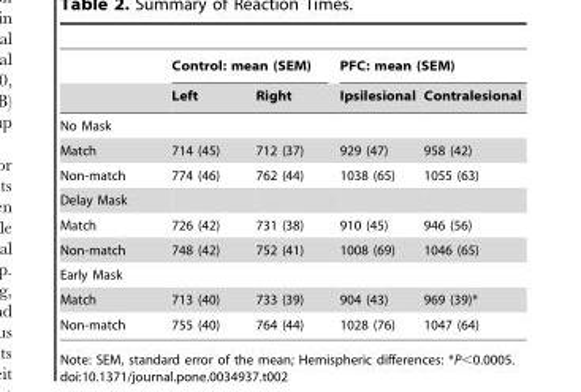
<table><thead><tr><td rowspan="2"></td><td colspan="2">Control: mean (SEM)</td><td colspan="2">PFC: mean (SEM)</td></tr><tr><td>Left</td><td>Right</td><td>Ipsilesional</td><td>Contralesional</td></tr></thead><tbody><tr><td colspan="5">No Mask</td></tr><tr><td>Match</td><td>714 (45)</td><td>712 (37)</td><td>929 (47)</td><td>958 (42)</td></tr><tr><td>Non-match</td><td>774 (46)</td><td>762 (44)</td><td>1038 (65)</td><td>1055 (63)</td></tr><tr><td colspan="5">Delay Mask</td></tr><tr><td>Match</td><td>726 (42)</td><td>731 (38)</td><td>910 (45)</td><td>946 (56)</td></tr><tr><td>Non-match</td><td>748 (42)</td><td>752 (41)</td><td>1008 (69)</td><td>1046 (65)</td></tr><tr><td colspan="5">Early Mask</td></tr><tr><td>Match</td><td>713 (40)</td><td>733 (39)</td><td>904 (43)</td><td>969 (39)*</td></tr><tr><td>Non-match</td><td>755 (40)</td><td>764 (44)</td><td>1028 (76)</td><td>1047 (64)</td></tr></tbody></table>